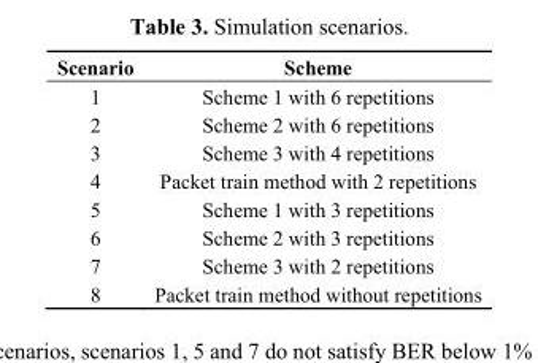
<table><thead><tr><td>Scenario</td><td>Scheme</td></tr></thead><tbody><tr><td>1</td><td>Scheme 1 with 6 repetitions</td></tr><tr><td>2</td><td>Scheme 2 with 6 repetitions</td></tr><tr><td>3</td><td>Scheme 3 with 4 repetitions</td></tr><tr><td>4</td><td>Packet train method with 2 repetitions</td></tr><tr><td>5</td><td>Scheme 1 with 3 repetitions</td></tr><tr><td>6</td><td>Scheme 2 with 3 repetitions</td></tr><tr><td>7</td><td>Scheme 3 with 2 repetitions</td></tr><tr><td>8</td><td>Packet train method without repetitions</td></tr></tbody></table>